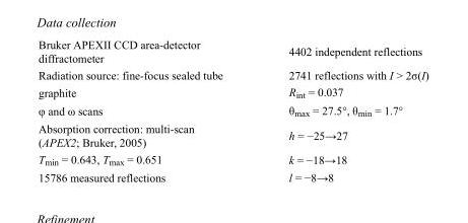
<table><tbody><tr><td>Bruker APEXII CCD area-detector diffractometer</td><td>4402 independent reflections</td></tr><tr><td>Radiation source: fine-focus sealed tube</td><td>2741 reflections with I &gt; 2σ(I)</td></tr><tr><td>graphite</td><td>R<sub>int</sub> = 0.037</td></tr><tr><td>φ and ω scans</td><td>θ<sub>max</sub> = 27.5°, θ<sub>min</sub> = 1.7°</td></tr><tr><td>Absorption correction: multi-scan (APEX2; Bruker, 2005)</td><td>h = −25→27</td></tr><tr><td>T<sub>min</sub> = 0.643, T<sub>max</sub> = 0.651</td><td>k = −18→18</td></tr><tr><td>15786 measured reflections</td><td>l = −8→8</td></tr></tbody></table>